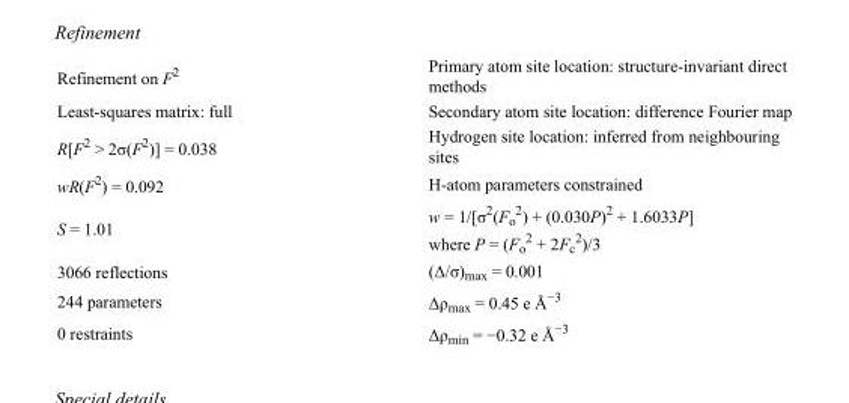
<table><tbody><tr><td>Refinement on F<sup>2</sup></td><td>Primary atom site location: structure-invariant direct methods</td></tr><tr><td>Least-squares matrix: full</td><td>Secondary atom site location: difference Fourier map</td></tr><tr><td>R[F<sup>2</sup> &gt; 2σ(F<sup>2</sup>)] = 0.038</td><td>Hydrogen site location: inferred from neighbouring sites</td></tr><tr><td>wR(F<sup>2</sup>) = 0.092</td><td>H-atom parameters constrained</td></tr><tr><td>S = 1.01</td><td>w = 1/[σ<sup>2</sup>(F<sub>o</sub> <sup>2</sup>) + (0.030P)<sup>2</sup> + 1.6033P] where P = (F<sub>o</sub> <sup>2</sup> + 2F<sub>c</sub> <sup>2</sup>)/3</td></tr><tr><td>3066 reflections</td><td>(Δ/σ)<sub>max</sub> = 0.001</td></tr><tr><td>244 parameters</td><td>Δρ<sub>max</sub> = 0.45 e Å<sup>−3</sup></td></tr><tr><td>0 restraints</td><td>Δρ<sub>min</sub> = −0.32 e Å<sup>−3</sup></td></tr></tbody></table>